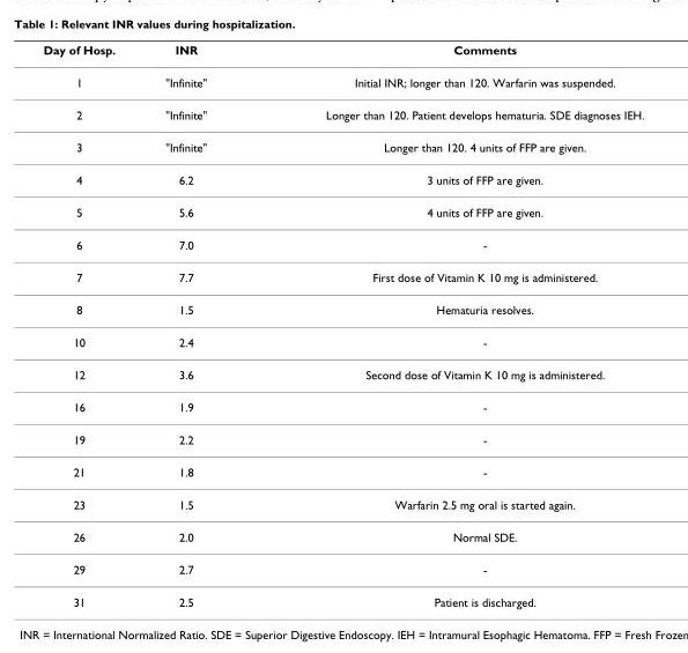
<table><thead><tr><td>Day of Hosp.</td><td>INR</td><td>Comments</td></tr></thead><tbody><tr><td>1</td><td>&quot;Infinite&quot;</td><td>Initial INR; longer than 120. Warfarin was suspended.</td></tr><tr><td>2</td><td>&quot;Infinite&quot;</td><td>Longer than 120. Patient develops hematuria. SDE diagnoses IEH.</td></tr><tr><td>3</td><td>&quot;Infinite&quot;</td><td>Longer than 120. 4 units of FFP are given.</td></tr><tr><td>4</td><td>6.2</td><td>3 units of FFP are given.</td></tr><tr><td>5</td><td>5.6</td><td>4 units of FFP are given.</td></tr><tr><td>6</td><td>7.0</td><td>-</td></tr><tr><td>7</td><td>7.7</td><td>First dose of Vitamin K 10 mg is administered.</td></tr><tr><td>8</td><td>1.5</td><td>Hematuria resolves.</td></tr><tr><td>10</td><td>2.4</td><td>-</td></tr><tr><td>12</td><td>3.6</td><td>Second dose of Vitamin K 10 mg is administered.</td></tr><tr><td>16</td><td>1.9</td><td>-</td></tr><tr><td>19</td><td>2.2</td><td>-</td></tr><tr><td>21</td><td>1.8</td><td>-</td></tr><tr><td>23</td><td>1.5</td><td>Warfarin 2.5 mg oral is started again.</td></tr><tr><td>26</td><td>2.0</td><td>Normal SDE.</td></tr><tr><td>29</td><td>2.7</td><td>-</td></tr><tr><td>31</td><td>2.5</td><td>Patient is discharged.</td></tr></tbody></table>